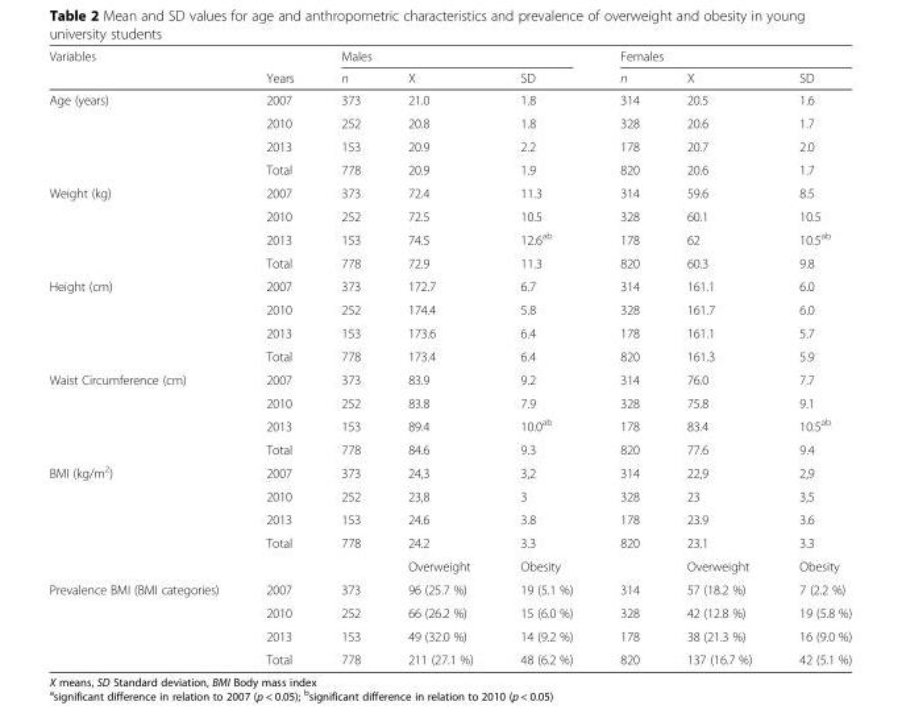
<table><thead><tr><td rowspan="2">Variables</td><td rowspan="2">Years</td><td colspan="3">Males</td><td colspan="3">Females</td></tr><tr><td>n</td><td>X</td><td>SD</td><td>n</td><td>X</td><td>SD</td></tr></thead><tbody><tr><td rowspan="4">Age (years)</td><td>2007</td><td>373</td><td>21.0</td><td>1.8</td><td>314</td><td>20.5</td><td>1.6</td></tr><tr><td>2010</td><td>252</td><td>20.8</td><td>1.8</td><td>328</td><td>20.6</td><td>1.7</td></tr><tr><td>2013</td><td>153</td><td>20.9</td><td>2.2</td><td>178</td><td>20.7</td><td>2.0</td></tr><tr><td>Total</td><td>778</td><td>20.9</td><td>1.9</td><td>820</td><td>20.6</td><td>1.7</td></tr><tr><td rowspan="4">Weight (kg)</td><td>2007</td><td>373</td><td>72.4</td><td>11.3</td><td>314</td><td>59.6</td><td>8.5</td></tr><tr><td>2010</td><td>252</td><td>72.5</td><td>10.5</td><td>328</td><td>60.1</td><td>10.5</td></tr><tr><td>2013</td><td>153</td><td>74.5</td><td>12.6<sup>ab</sup></td><td>178</td><td>62</td><td>10.5<sup>ab</sup></td></tr><tr><td>Total</td><td>778</td><td>72.9</td><td>11.3</td><td>820</td><td>60.3</td><td>9.8</td></tr><tr><td rowspan="4">Height (cm)</td><td>2007</td><td>373</td><td>172.7</td><td>6.7</td><td>314</td><td>161.1</td><td>6.0</td></tr><tr><td>2010</td><td>252</td><td>174.4</td><td>5.8</td><td>328</td><td>161.7</td><td>6.0</td></tr><tr><td>2013</td><td>153</td><td>173.6</td><td>6.4</td><td>178</td><td>161.1</td><td>5.7</td></tr><tr><td>Total</td><td>778</td><td>173.4</td><td>6.4</td><td>820</td><td>161.3</td><td>5.9</td></tr><tr><td rowspan="4">Waist Circumference (cm)</td><td>2007</td><td>373</td><td>83.9</td><td>9.2</td><td>314</td><td>76.0</td><td>7.7</td></tr><tr><td>2010</td><td>252</td><td>83.8</td><td>7.9</td><td>328</td><td>75.8</td><td>9.1</td></tr><tr><td>2013</td><td>153</td><td>89.4</td><td>10.0<sup>ab</sup></td><td>178</td><td>83.4</td><td>10.5<sup>ab</sup></td></tr><tr><td>Total</td><td>778</td><td>84.6</td><td>9.3</td><td>820</td><td>77.6</td><td>9.4</td></tr><tr><td rowspan="5">BMI (kg/m<sup>2</sup>)</td><td>2007</td><td>373</td><td>24,3</td><td>3,2</td><td>314</td><td>22,9</td><td>2,9</td></tr><tr><td>2010</td><td>252</td><td>23,8</td><td>3</td><td>328</td><td>23</td><td>3,5</td></tr><tr><td>2013</td><td>153</td><td>24.6</td><td>3.8</td><td>178</td><td>23.9</td><td>3.6</td></tr><tr><td>Total</td><td>778</td><td>24.2</td><td>3.3</td><td>820</td><td>23.1</td><td>3.3</td></tr><tr><td></td><td></td><td>Overweight</td><td>Obesity</td><td></td><td>Overweight</td><td>Obesity</td></tr><tr><td rowspan="4">Prevalence BMI (BMI categories)</td><td>2007</td><td>373</td><td>96 (25.7 %)</td><td>19 (5.1 %)</td><td>314</td><td>57 (18.2 %)</td><td>7 (2.2 %)</td></tr><tr><td>2010</td><td>252</td><td>66 (26.2 %)</td><td>15 (6.0 %)</td><td>328</td><td>42 (12.8 %)</td><td>19 (5.8 %)</td></tr><tr><td>2013</td><td>153</td><td>49 (32.0 %)</td><td>14 (9.2 %)</td><td>178</td><td>38 (21.3 %)</td><td>16 (9.0 %)</td></tr><tr><td>Total</td><td>778</td><td>211 (27.1 %)</td><td>48 (6.2 %)</td><td>820</td><td>137 (16.7 %)</td><td>42 (5.1 %)</td></tr></tbody></table>